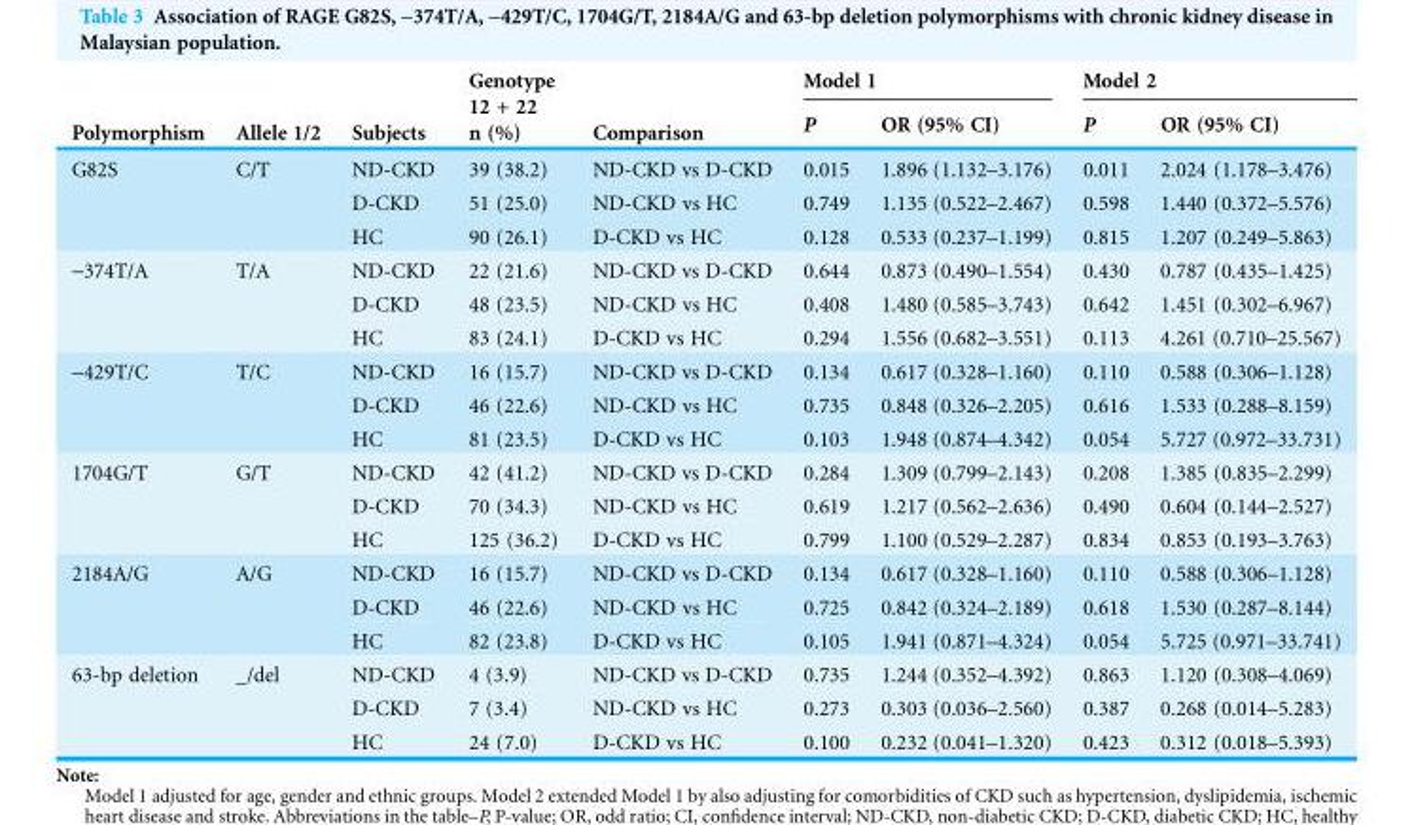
<table><thead><tr><td rowspan="2">Polymorphism</td><td rowspan="2">Allele 1/2</td><td rowspan="2">Subjects</td><td rowspan="2">Genotype 12 + 22 n (%)</td><td rowspan="2">Comparison</td><td colspan="2">Model 1</td><td colspan="2">Model 2</td></tr><tr><td>P</td><td>OR (95% CI)</td><td>P</td><td>OR (95% CI)</td></tr></thead><tbody><tr><td rowspan="3">G82S</td><td rowspan="3">C/T</td><td>ND-CKD</td><td>39 (38.2)</td><td>ND-CKD vs D-CKD</td><td>0.015</td><td>1.896 (1.132–3.176)</td><td>0.011</td><td>2.024 (1.178–3.476)</td></tr><tr><td>D-CKD</td><td>51 (25.0)</td><td>ND-CKD vs HC</td><td>0.749</td><td>1.135 (0.522–2.467)</td><td>0.598</td><td>1.440 (0.372–5.576)</td></tr><tr><td>HC</td><td>90 (26.1)</td><td>D-CKD vs HC</td><td>0.128</td><td>0.533 (0.237–1.199)</td><td>0.815</td><td>1.207 (0.249–5.863)</td></tr><tr><td rowspan="3">-374T/A</td><td rowspan="3">T/A</td><td>ND-CKD</td><td>22 (21.6)</td><td>ND-CKD vs D-CKD</td><td>0.644</td><td>0.873 (0.490–1.554)</td><td>0.430</td><td>0.787 (0.435–1.425)</td></tr><tr><td>D-CKD</td><td>48 (23.5)</td><td>ND-CKD vs HC</td><td>0.408</td><td>1.480 (0.585–3.743)</td><td>0.642</td><td>1.451 (0.302–6.967)</td></tr><tr><td>HC</td><td>83 (24.1)</td><td>D-CKD vs HC</td><td>0.294</td><td>1.556 (0.682–3.551)</td><td>0.113</td><td>4.261 (0.710–25.567)</td></tr><tr><td rowspan="3">-429T/C</td><td rowspan="3">T/C</td><td>ND-CKD</td><td>16 (15.7)</td><td>ND-CKD vs D-CKD</td><td>0.134</td><td>0.617 (0.328–1.160)</td><td>0.110</td><td>0.588 (0.306–1.128)</td></tr><tr><td>D-CKD</td><td>46 (22.6)</td><td>ND-CKD vs HC</td><td>0.735</td><td>0.848 (0.326–2.205)</td><td>0.616</td><td>1.533 (0.288–8.159)</td></tr><tr><td>HC</td><td>81 (23.5)</td><td>D-CKD vs HC</td><td>0.103</td><td>1.948 (0.874–4.342)</td><td>0.054</td><td>5.727 (0.972–33.731)</td></tr><tr><td rowspan="3">1704G/T</td><td rowspan="3">G/T</td><td>ND-CKD</td><td>42 (41.2)</td><td>ND-CKD vs D-CKD</td><td>0.284</td><td>1.309 (0.799–2.143)</td><td>0.208</td><td>1.385 (0.835–2.299)</td></tr><tr><td>D-CKD</td><td>70 (34.3)</td><td>ND-CKD vs HC</td><td>0.619</td><td>1.217 (0.562–2.636)</td><td>0.490</td><td>0.604 (0.144–2.527)</td></tr><tr><td>HC</td><td>125 (36.2)</td><td>D-CKD vs HC</td><td>0.799</td><td>1.100 (0.529–2.287)</td><td>0.834</td><td>0.853 (0.193–3.763)</td></tr><tr><td rowspan="3">2184A/G</td><td rowspan="3">A/G</td><td>ND-CKD</td><td>16 (15.7)</td><td>ND-CKD vs D-CKD</td><td>0.134</td><td>0.617 (0.328–1.160)</td><td>0.110</td><td>0.588 (0.306–1.128)</td></tr><tr><td>D-CKD</td><td>46 (22.6)</td><td>ND-CKD vs HC</td><td>0.725</td><td>0.842 (0.324–2.189)</td><td>0.618</td><td>1.530 (0.287–8.144)</td></tr><tr><td>HC</td><td>82 (23.8)</td><td>D-CKD vs HC</td><td>0.105</td><td>1.941 (0.871–4.324)</td><td>0.054</td><td>5.725 (0.971–33.741)</td></tr><tr><td rowspan="3">63-bp deletion</td><td rowspan="3">_/del</td><td>ND-CKD</td><td>4 (3.9)</td><td>ND-CKD vs D-CKD</td><td>0.735</td><td>1.244 (0.352–4.392)</td><td>0.863</td><td>1.120 (0.308–4.069)</td></tr><tr><td>D-CKD</td><td>7 (3.4)</td><td>ND-CKD vs HC</td><td>0.273</td><td>0.303 (0.036–2.560)</td><td>0.387</td><td>0.268 (0.014–5.283)</td></tr><tr><td>HC</td><td>24 (7.0)</td><td>D-CKD vs HC</td><td>0.100</td><td>0.232 (0.041–1.320)</td><td>0.423</td><td>0.312 (0.018–5.393)</td></tr></tbody></table>